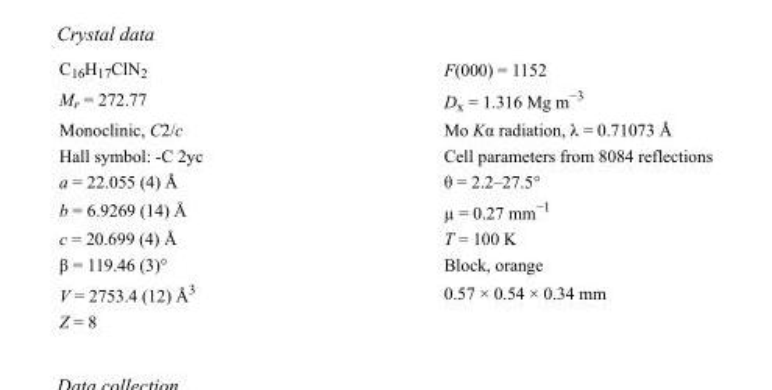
<table><tbody><tr><td>C<sub>16</sub>H<sub>17</sub>ClN<sub>2</sub></td><td>F(000) = 1152</td></tr><tr><td>M<sub>r</sub> = 272.77</td><td>D<sub>x</sub> = 1.316 Mg m<sup>−3</sup></td></tr><tr><td>Monoclinic, C2/c</td><td>Mo Kα radiation, λ = 0.71073 Å</td></tr><tr><td>Hall symbol: -C 2yc</td><td>Cell parameters from 8084 reflections</td></tr><tr><td>a = 22.055 (4) Å</td><td>θ = 2.2–27.5°</td></tr><tr><td>b = 6.9269 (14) Å</td><td>µ = 0.27 mm<sup>−1</sup></td></tr><tr><td>c = 20.699 (4) Å</td><td>T = 100 K</td></tr><tr><td>β = 119.46 (3)°</td><td>Block, orange</td></tr><tr><td>V = 2753.4 (12) Å<sup>3</sup></td><td>0.57 × 0.54 × 0.34 mm</td></tr><tr><td>Z = 8</td><td></td></tr></tbody></table>